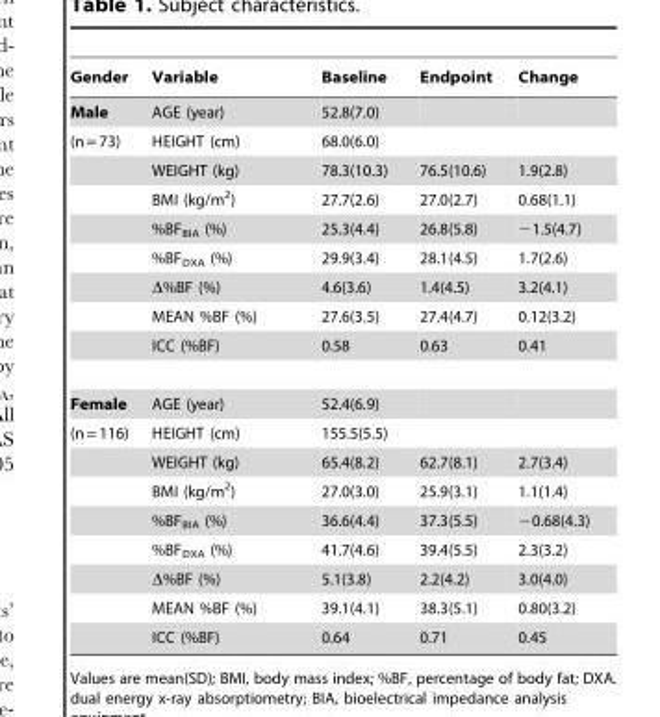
<table><thead><tr><td>Gender</td><td>Variable</td><td>Baseline</td><td>Endpoint</td><td>Change</td></tr></thead><tbody><tr><td>Male</td><td>AGE (year)</td><td>52.8(7.0)</td><td></td><td></td></tr><tr><td rowspan="8">(n = 73)</td><td>HEIGHT (cm)</td><td>68.0(6.0)</td><td></td><td></td></tr><tr><td>WEIGHT (kg)</td><td>78.3(10.3)</td><td>76.5(10.6)</td><td>1.9(2.8)</td></tr><tr><td>BMI (kg/m<sup>2</sup>)</td><td>27.7(2.6)</td><td>27.0(2.7)</td><td>0.68(1.1)</td></tr><tr><td>%BF<sub>BIA</sub> (%)</td><td>25.3(4.4)</td><td>26.8(5.8)</td><td>−1.5(4.7)</td></tr><tr><td>%BF<sub>DXA</sub> (%)</td><td>29.9(3.4)</td><td>28.1(4.5)</td><td>1.7(2.6)</td></tr><tr><td>Δ%BF (%)</td><td>4.6(3.6)</td><td>1.4(4.5)</td><td>3.2(4.1)</td></tr><tr><td>MEAN %BF (%)</td><td>27.6(3.5)</td><td>27.4(4.7)</td><td>0.12(3.2)</td></tr><tr><td>ICC (%BF)</td><td>0.58</td><td>0.63</td><td>0.41</td></tr><tr><td>Female</td><td>AGE (year)</td><td>52.4(6.9)</td><td></td><td></td></tr><tr><td rowspan="8">(n = 116)</td><td>HEIGHT (cm)</td><td>155.5(5.5)</td><td></td><td></td></tr><tr><td>WEIGHT (kg)</td><td>65.4(8.2)</td><td>62.7(8.1)</td><td>2.7(3.4)</td></tr><tr><td>BMI (kg/m<sup>2</sup>)</td><td>27.0(3.0)</td><td>25.9(3.1)</td><td>1.1(1.4)</td></tr><tr><td>%BF<sub>BIA</sub> (%)</td><td>36.6(4.4)</td><td>37.3(5.5)</td><td>−0.68(4.3)</td></tr><tr><td>%BF<sub>DXA</sub> (%)</td><td>41.7(4.6)</td><td>39.4(5.5)</td><td>2.3(3.2)</td></tr><tr><td>Δ%BF (%)</td><td>5.1(3.8)</td><td>2.2(4.2)</td><td>3.0(4.0)</td></tr><tr><td>MEAN %BF (%)</td><td>39.1(4.1)</td><td>38.3(5.1)</td><td>0.80(3.2)</td></tr><tr><td>ICC (%BF)</td><td>0.64</td><td>0.71</td><td>0.45</td></tr></tbody></table>